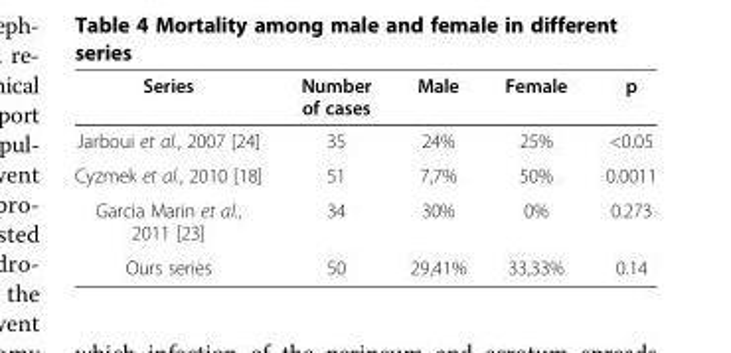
<table><thead><tr><td>Series</td><td>Number of cases</td><td>Male</td><td>Female</td><td>p</td></tr></thead><tbody><tr><td>Jarboui et al., 2007 [24]</td><td>35</td><td>24%</td><td>25%</td><td>&lt;0.05</td></tr><tr><td>Cyzmek et al., 2010 [18]</td><td>51</td><td>7,7%</td><td>50%</td><td>0.0011</td></tr><tr><td>Garcia Marin et al., 2011 [23]</td><td>34</td><td>30%</td><td>0%</td><td>0.273</td></tr><tr><td>Ours series</td><td>50</td><td>29,41%</td><td>33,33%</td><td>0.14</td></tr></tbody></table>